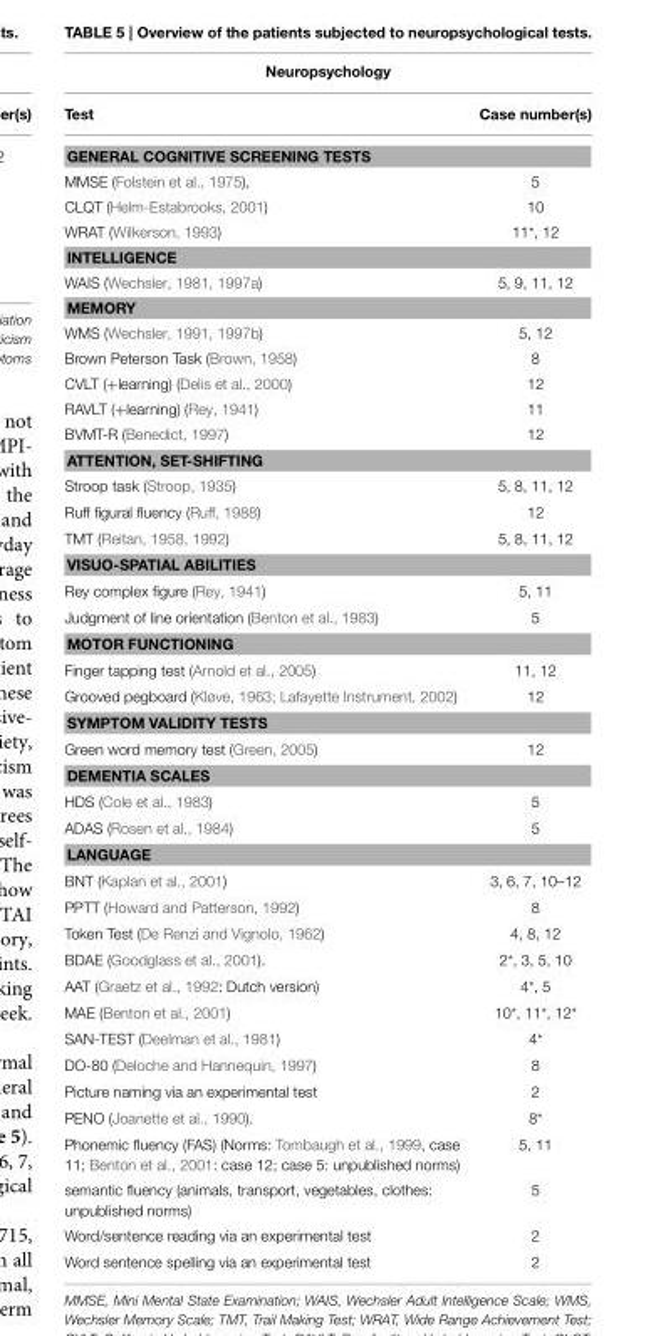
<table><thead><tr><td colspan="2">Neuropsychology</td></tr><tr><td>Test</td><td>Case number(s)</td></tr></thead><tbody><tr><td colspan="2">GENERAL COGNITIVE SCREENING TESTS</td></tr><tr><td>MMSE (Folstein et al., 1975),</td><td>5</td></tr><tr><td>CLQT (Helm-Estabrooks, 2001)</td><td>10</td></tr><tr><td>WRAT (Wilkerson, 1993)</td><td>11*, 12</td></tr><tr><td colspan="2">INTELLIGENCE</td></tr><tr><td>WAIS (Wechsler, 1981, 1997a)</td><td>5, 9, 11, 12</td></tr><tr><td colspan="2">MEMORY</td></tr><tr><td>WMS (Wechsler, 1991, 1997b)</td><td>5, 12</td></tr><tr><td>Brown Peterson Task (Brown, 1958)</td><td>8</td></tr><tr><td>CVLT (+learning) (Delis et al., 2000)</td><td>12</td></tr><tr><td>RAVLT (+learning) (Rey, 1941)</td><td>11</td></tr><tr><td>BVMT-R (Benedict, 1997)</td><td>12</td></tr><tr><td colspan="2">ATTENTION, SET-SHIFTING</td></tr><tr><td>Stroop task (Stroop, 1935)</td><td>5, 8, 11, 12</td></tr><tr><td>Ruff figural fluency (Ruff, 1988)</td><td>12</td></tr><tr><td>TMT (Reitan, 1958, 1992)</td><td>5, 8, 11, 12</td></tr><tr><td colspan="2">VISUO-SPATIAL ABILITIES</td></tr><tr><td>Rey complex figure (Rey, 1941)</td><td>5, 11</td></tr><tr><td>Judgment of line orientation (Benton et al., 1983)</td><td>5</td></tr><tr><td colspan="2">MOTOR FUNCTIONING</td></tr><tr><td>Finger tapping test (Arnold et al., 2005)</td><td>11, 12</td></tr><tr><td>Grooved pegboard (Kløve, 1963; Lafayette Instrument, 2002)</td><td>12</td></tr><tr><td colspan="2">SYMPTOM VALIDITY TESTS</td></tr><tr><td>Green word memory test (Green, 2005)</td><td>12</td></tr><tr><td colspan="2">DEMENTIA SCALES</td></tr><tr><td>HDS (Cole et al., 1983)</td><td>5</td></tr><tr><td>ADAS (Rosen et al., 1984)</td><td>5</td></tr><tr><td colspan="2">LANGUAGE</td></tr><tr><td>BNT (Kaplan et al., 2001)</td><td>3, 6, 7, 10–12</td></tr><tr><td>PPTT (Howard and Patterson, 1992)</td><td>8</td></tr><tr><td>Token Test (De Renzi and Vignolo, 1962)</td><td>4, 8, 12</td></tr><tr><td>BDAE (Goodglass et al., 2001).</td><td>2*, 3, 5, 10</td></tr><tr><td>AAT (Graetz et al., 1992: Dutch version)</td><td>4*, 5</td></tr><tr><td>MAE (Benton et al., 2001)</td><td>10*, 11*, 12*</td></tr><tr><td>SAN-TEST (Deelman et al., 1981)</td><td>4*</td></tr><tr><td>DO-80 (Deloche and Hannequin, 1997)</td><td>8</td></tr><tr><td>Picture naming via an experimental test</td><td>2</td></tr><tr><td>PENO (Joanette et al., 1990).</td><td>8*</td></tr><tr><td>Phonemic fluency (FAS) (Norms: Tombaugh et al., 1999, case 11; Benton et al., 2001: case 12; case 5: unpublished norms)</td><td>5, 11</td></tr><tr><td>semantic fluency (animals, transport, vegetables, clothes: unpublished norms)</td><td>5</td></tr><tr><td>Word/sentence reading via an experimental test</td><td>2</td></tr><tr><td>Word sentence spelling via an experimental test</td><td>2</td></tr></tbody></table>